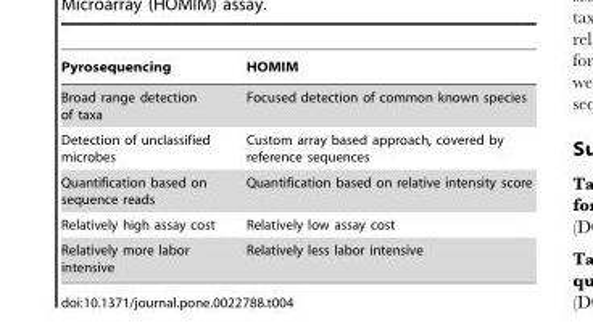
<table><thead><tr><td>Pyrosequencing</td><td>HOMIM</td></tr></thead><tbody><tr><td>Broad range detection of taxa</td><td>Focused detection of common known species</td></tr><tr><td>Detection of unclassified microbes</td><td>Custom array based approach, covered by reference sequences</td></tr><tr><td>Quantification based on sequence reads</td><td>Quantification based on relative intensity score</td></tr><tr><td>Relatively high assay cost</td><td>Relatively low assay cost</td></tr><tr><td>Relatively more labor intensive</td><td>Relatively less labor intensive</td></tr></tbody></table>